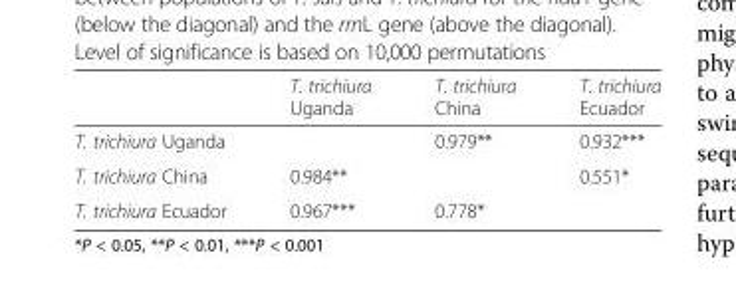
<table><thead><tr><td></td><td>T. trichiura Uganda</td><td>T. trichiura China</td><td>T. trichiura Ecuador</td></tr></thead><tbody><tr><td>T. trichiura Uganda</td><td></td><td>0.979**</td><td>0.932***</td></tr><tr><td>T. trichiura China</td><td>0.984**</td><td></td><td>0.551*</td></tr><tr><td>T. trichiura Ecuador</td><td>0.967***</td><td>0.778*</td><td></td></tr></tbody></table>